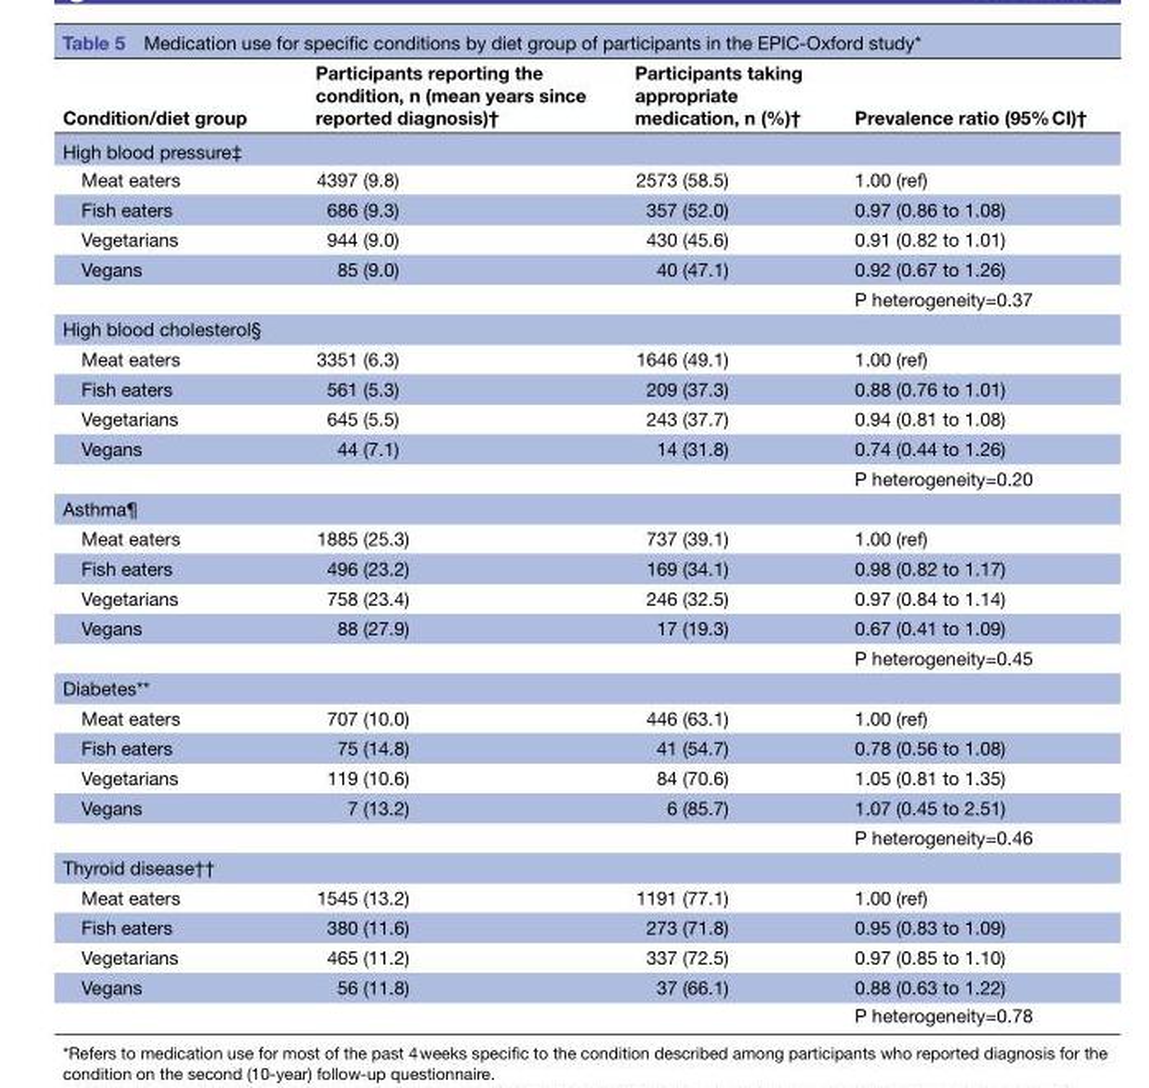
<table><thead><tr><td>Condition/diet group</td><td>Participants reporting the condition, n (mean years since reported diagnosis)†</td><td>Participants taking appropriate medication, n (%)†</td><td>Prevalence ratio (95% CI)†</td></tr></thead><tbody><tr><td colspan="4">High blood pressure‡</td></tr><tr><td>Meat eaters</td><td>4397 (9.8)</td><td>2573 (58.5)</td><td>1.00 (ref)</td></tr><tr><td>Fish eaters</td><td>686 (9.3)</td><td>357 (52.0)</td><td>0.97 (0.86 to 1.08)</td></tr><tr><td>Vegetarians</td><td>944 (9.0)</td><td>430 (45.6)</td><td>0.91 (0.82 to 1.01)</td></tr><tr><td rowspan="2">Vegans</td><td>85 (9.0)</td><td>40 (47.1)</td><td>0.92 (0.67 to 1.26)</td></tr><tr><td></td><td></td><td>P heterogeneity=0.37</td></tr><tr><td colspan="4">High blood cholesterol§</td></tr><tr><td>Meat eaters</td><td>3351 (6.3)</td><td>1646 (49.1)</td><td>1.00 (ref)</td></tr><tr><td>Fish eaters</td><td>561 (5.3)</td><td>209 (37.3)</td><td>0.88 (0.76 to 1.01)</td></tr><tr><td>Vegetarians</td><td>645 (5.5)</td><td>243 (37.7)</td><td>0.94 (0.81 to 1.08)</td></tr><tr><td rowspan="2">Vegans</td><td>44 (7.1)</td><td>14 (31.8)</td><td>0.74 (0.44 to 1.26)</td></tr><tr><td></td><td></td><td>P heterogeneity=0.20</td></tr><tr><td colspan="4">Asthma¶</td></tr><tr><td>Meat eaters</td><td>1885 (25.3)</td><td>737 (39.1)</td><td>1.00 (ref)</td></tr><tr><td>Fish eaters</td><td>496 (23.2)</td><td>169 (34.1)</td><td>0.98 (0.82 to 1.17)</td></tr><tr><td>Vegetarians</td><td>758 (23.4)</td><td>246 (32.5)</td><td>0.97 (0.84 to 1.14)</td></tr><tr><td rowspan="2">Vegans</td><td>88 (27.9)</td><td>17 (19.3)</td><td>0.67 (0.41 to 1.09)</td></tr><tr><td></td><td></td><td>P heterogeneity=0.45</td></tr><tr><td colspan="4">Diabetes**</td></tr><tr><td>Meat eaters</td><td>707 (10.0)</td><td>446 (63.1)</td><td>1.00 (ref)</td></tr><tr><td>Fish eaters</td><td>75 (14.8)</td><td>41 (54.7)</td><td>0.78 (0.56 to 1.08)</td></tr><tr><td>Vegetarians</td><td>119 (10.6)</td><td>84 (70.6)</td><td>1.05 (0.81 to 1.35)</td></tr><tr><td rowspan="2">Vegans</td><td>7 (13.2)</td><td>6 (85.7)</td><td>1.07 (0.45 to 2.51)</td></tr><tr><td></td><td></td><td>P heterogeneity=0.46</td></tr><tr><td colspan="4">Thyroid disease††</td></tr><tr><td>Meat eaters</td><td>1545 (13.2)</td><td>1191 (77.1)</td><td>1.00 (ref)</td></tr><tr><td>Fish eaters</td><td>380 (11.6)</td><td>273 (71.8)</td><td>0.95 (0.83 to 1.09)</td></tr><tr><td>Vegetarians</td><td>465 (11.2)</td><td>337 (72.5)</td><td>0.97 (0.85 to 1.10)</td></tr><tr><td rowspan="2">Vegans</td><td>56 (11.8)</td><td>37 (66.1)</td><td>0.88 (0.63 to 1.22)</td></tr><tr><td></td><td></td><td>P heterogeneity=0.78</td></tr></tbody></table>